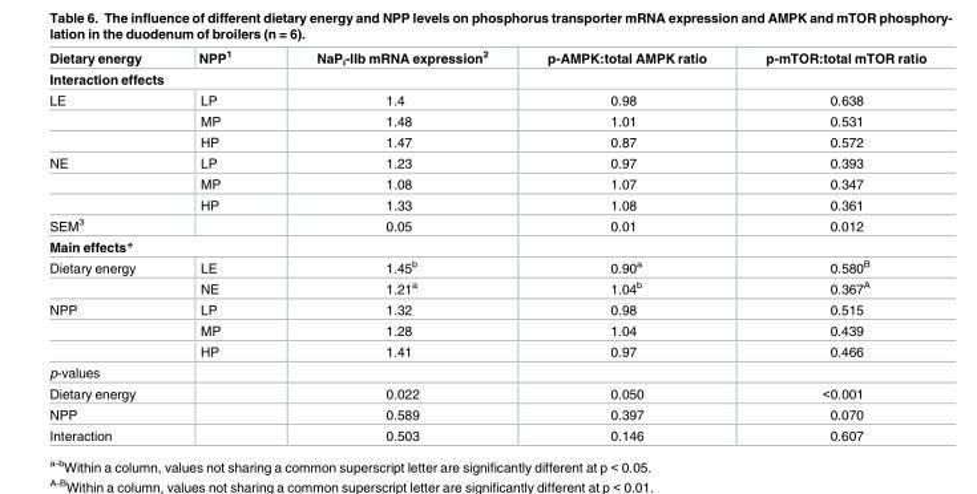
<table><thead><tr><td>Dietary energy</td><td>NPP<sup>1</sup></td><td>NaP<sub>i</sub>-IIb mRNA expression<sup>2</sup></td><td>p-AMPK:total AMPK ratio</td><td>p-mTOR:total mTOR ratio</td></tr></thead><tbody><tr><td colspan="5">Interaction effects</td></tr><tr><td rowspan="3">LE</td><td>LP</td><td>1.4</td><td>0.98</td><td>0.638</td></tr><tr><td>MP</td><td>1.48</td><td>1.01</td><td>0.531</td></tr><tr><td>HP</td><td>1.47</td><td>0.87</td><td>0.572</td></tr><tr><td rowspan="3">NE</td><td>LP</td><td>1.23</td><td>0.97</td><td>0.393</td></tr><tr><td>MP</td><td>1.08</td><td>1.07</td><td>0.347</td></tr><tr><td>HP</td><td>1.33</td><td>1.08</td><td>0.361</td></tr><tr><td>SEM<sup>3</sup></td><td></td><td>0.05</td><td>0.01</td><td>0.012</td></tr><tr><td colspan="5">Main effects*</td></tr><tr><td rowspan="2">Dietary energy</td><td>LE</td><td>1.45<sup>b</sup></td><td>0.90<sup>a</sup></td><td>0.580<sup>B</sup></td></tr><tr><td>NE</td><td>1.21<sup>a</sup></td><td>1.04<sup>b</sup></td><td>0.367<sup>A</sup></td></tr><tr><td rowspan="3">NPP</td><td>LP</td><td>1.32</td><td>0.98</td><td>0.515</td></tr><tr><td>MP</td><td>1.28</td><td>1.04</td><td>0.439</td></tr><tr><td>HP</td><td>1.41</td><td>0.97</td><td>0.466</td></tr><tr><td colspan="5">p-values</td></tr><tr><td>Dietary energy</td><td></td><td>0.022</td><td>0.050</td><td>&lt;0.001</td></tr><tr><td>NPP</td><td></td><td>0.589</td><td>0.397</td><td>0.070</td></tr><tr><td>Interaction</td><td></td><td>0.503</td><td>0.146</td><td>0.607</td></tr></tbody></table>